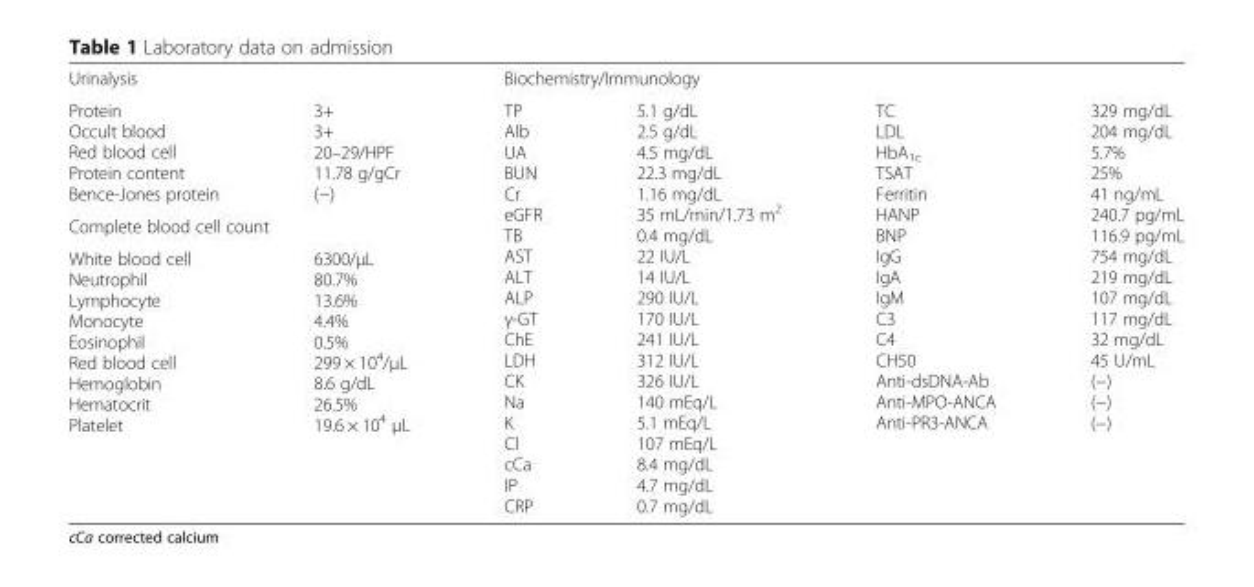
<table><tbody><tr><td colspan="2">Urinalysis</td><td colspan="4">Biochemistry/Immunology</td></tr><tr><td>Protein Occult blood Red blood cell Protein content Bence-Jones protein</td><td>3+ 3+ 20–29/HPF 11.78 g/gCr (−)</td><td rowspan="3">TP Alb UA BUN Cr eGFR TB AST ALT ALP γ-GT ChE LDH CK Na K Cl cCa IP CRP</td><td rowspan="3">5.1 g/dL 2.5 g/dL 4.5 mg/dL 22.3 mg/dL 1.16 mg/dL 35 mL/min/1.73 m<sup>2</sup> 0.4 mg/dL 22 IU/L 14 IU/L 290 IU/L 170 IU/L 241 IU/L 312 IU/L 326 IU/L 140 mEq/L 5.1 mEq/L 107 mEq/L 8.4 mg/dL 4.7 mg/dL 0.7 mg/dL</td><td rowspan="3">TC LDL HbA<sub>1c</sub> TSAT Ferritin HANP BNP IgG IgA IgM C3 C4 CH50 Anti-dsDNA-Ab Anti-MPO-ANCA Anti-PR3-ANCA</td><td rowspan="3">329 mg/dL 204 mg/dL 5.7% 25% 41 ng/mL 240.7 pg/mL 116.9 pg/mL 754 mg/dL 219 mg/dL 107 mg/dL 117 mg/dL 32 mg/dL 45 U/mL (−) (−) (−)</td></tr><tr><td colspan="2">Complete blood cell count</td></tr><tr><td>White blood cell Neutrophil Lymphocyte Monocyte Eosinophil Red blood cell Hemoglobin Hematocrit Platelet</td><td>6300/μL 80.7% 13.6% 4.4% 0.5% 299 × 10<sup>4</sup>/μL 8.6 g/dL 26.5% 19.6 × 10<sup>4</sup> μL</td></tr></tbody></table>